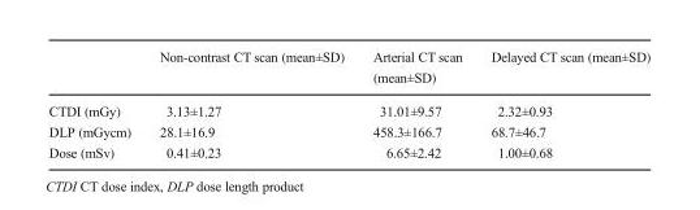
<table><thead><tr><td></td><td>Non-contrast CT scan (mean±SD)</td><td>Arterial CT scan (mean±SD)</td><td>Delayed CT scan (mean±SD)</td></tr></thead><tbody><tr><td>CTDI (mGy)</td><td>3.13±1.27</td><td>31.01±9.57</td><td>2.32±0.93</td></tr><tr><td>DLP (mGycm)</td><td>28.1±16.9</td><td>458.3±166.7</td><td>68.7±46.7</td></tr><tr><td>Dose (mSv)</td><td>0.41±0.23</td><td>6.65±2.42</td><td>1.00±0.68</td></tr></tbody></table>